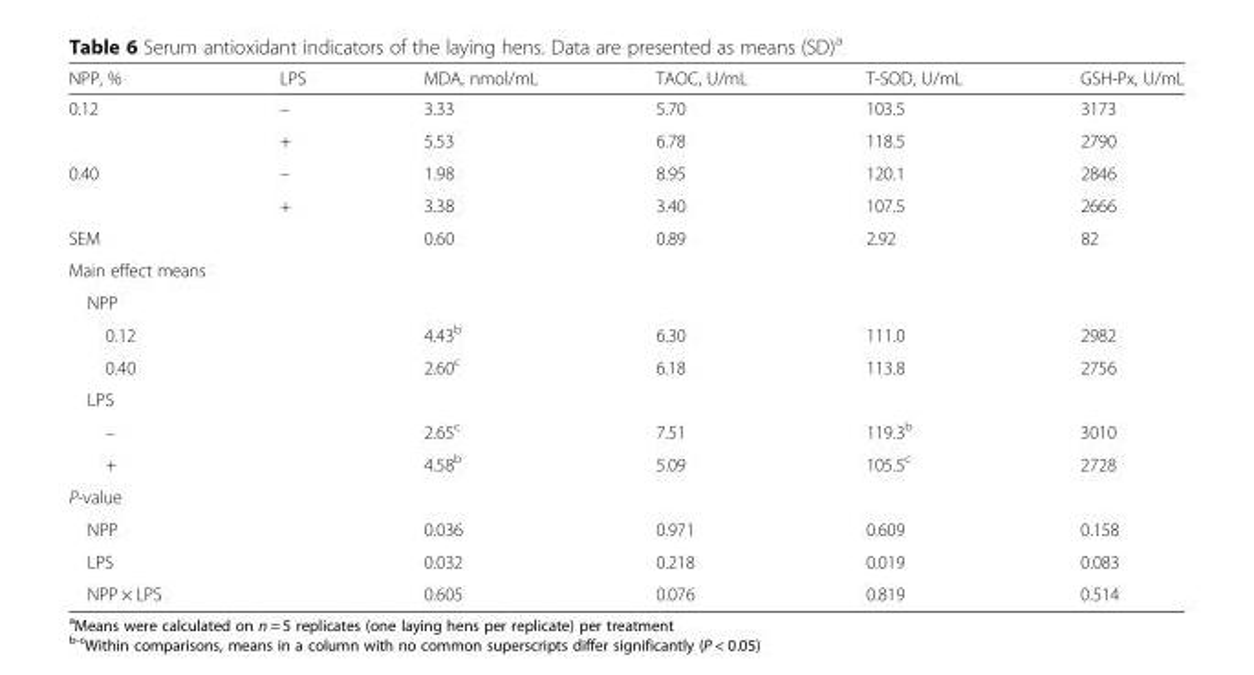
<table><thead><tr><td>NPP, %</td><td>LPS</td><td>MDA, nmol/mL</td><td>TAOC, U/mL</td><td>T-SOD, U/mL</td><td>GSH-Px, U/mL</td></tr></thead><tbody><tr><td rowspan="2">0.12</td><td>–</td><td>3.33</td><td>5.70</td><td>103.5</td><td>3173</td></tr><tr><td>+</td><td>5.53</td><td>6.78</td><td>118.5</td><td>2790</td></tr><tr><td rowspan="2">0.40</td><td>–</td><td>1.98</td><td>8.95</td><td>120.1</td><td>2846</td></tr><tr><td>+</td><td>3.38</td><td>3.40</td><td>107.5</td><td>2666</td></tr><tr><td>SEM</td><td></td><td>0.60</td><td>0.89</td><td>2.92</td><td>82</td></tr><tr><td colspan="6">Main effect means</td></tr><tr><td colspan="6">NPP</td></tr><tr><td>0.12</td><td></td><td>4.43<sup>b</sup></td><td>6.30</td><td>111.0</td><td>2982</td></tr><tr><td>0.40</td><td></td><td>2.60<sup>c</sup></td><td>6.18</td><td>113.8</td><td>2756</td></tr><tr><td colspan="6">LPS</td></tr><tr><td>–</td><td></td><td>2.65<sup>c</sup></td><td>7.51</td><td>119.3<sup>b</sup></td><td>3010</td></tr><tr><td>+</td><td></td><td>4.58<sup>b</sup></td><td>5.09</td><td>105.5<sup>c</sup></td><td>2728</td></tr><tr><td colspan="6">P-value</td></tr><tr><td>NPP</td><td></td><td>0.036</td><td>0.971</td><td>0.609</td><td>0.158</td></tr><tr><td>LPS</td><td></td><td>0.032</td><td>0.218</td><td>0.019</td><td>0.083</td></tr><tr><td>NPP × LPS</td><td></td><td>0.605</td><td>0.076</td><td>0.819</td><td>0.514</td></tr></tbody></table>